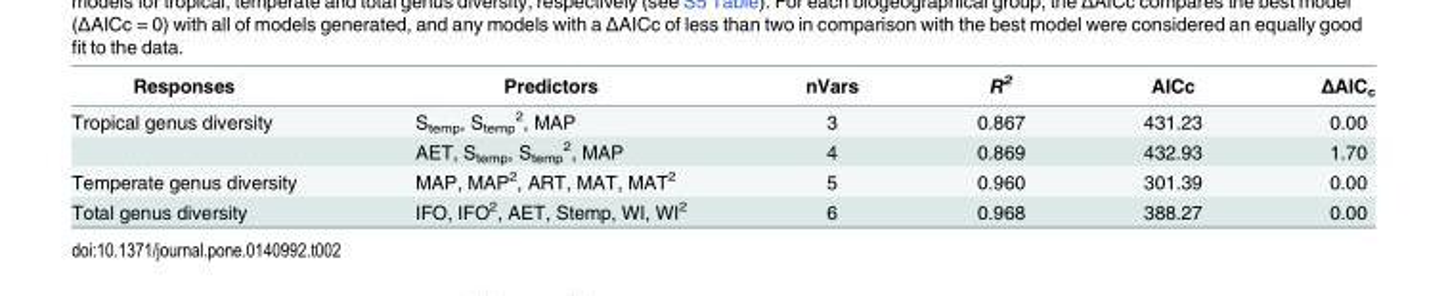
<table><thead><tr><td>Responses</td><td>Predictors</td><td>nVars</td><td>R<sup>2</sup></td><td>AICc</td><td>ΔAIC<sub>c</sub></td></tr></thead><tbody><tr><td rowspan="2">Tropical genus diversity</td><td>S<sub>temp</sub>, S<sub>temp</sub> <sup>2</sup>, MAP</td><td>3</td><td>0.867</td><td>431.23</td><td>0.00</td></tr><tr><td>AET, S<sub>temp</sub>, S<sub>temp</sub> <sup>2</sup>, MAP</td><td>4</td><td>0.869</td><td>432.93</td><td>1.70</td></tr><tr><td>Temperate genus diversity</td><td>MAP, MAP<sup>2</sup>, ART, MAT, MAT<sup>2</sup></td><td>5</td><td>0.960</td><td>301.39</td><td>0.00</td></tr><tr><td>Total genus diversity</td><td>IFO, IFO<sup>2</sup>, AET, Stemp, WI, WI<sup>2</sup></td><td>6</td><td>0.968</td><td>388.27</td><td>0.00</td></tr></tbody></table>